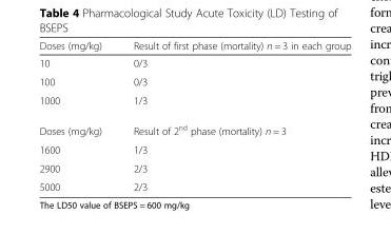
<table><thead><tr><td>Doses (mg/kg)</td><td>Result of first phase (mortality) n = 3 in each group</td></tr></thead><tbody><tr><td>10</td><td>0/3</td></tr><tr><td>100</td><td>0/3</td></tr><tr><td>1000</td><td>1/3</td></tr><tr><td>Doses (mg/kg)</td><td>Result of 2<sup>nd</sup> phase (mortality) n = 3</td></tr><tr><td>1600</td><td>1/3</td></tr><tr><td>2900</td><td>2/3</td></tr><tr><td>5000</td><td>2/3</td></tr></tbody></table>